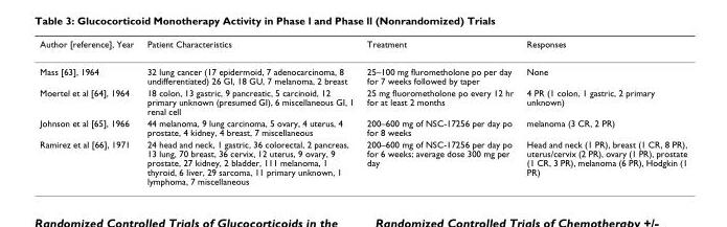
<table><thead><tr><td>Author [reference], Year</td><td>Patient Characteristics</td><td>Treatment</td><td>Responses</td></tr></thead><tbody><tr><td>Mass [63], 1964</td><td>32 lung cancer (17 epidermoid, 7 adenocarcinoma, 8 undifferentiated) 26 GI, 18 GU, 7 melanoma, 2 breast</td><td>25–100 mg flurometholone po per day for 7 weeks followed by taper</td><td>None</td></tr><tr><td>Moertel et al [64], 1964</td><td>18 colon, 13 gastric, 9 pancreatic, 5 carcinoid, 12 primary unknown (presumed GI), 6 miscellaneous GI, 1 renal cell</td><td>25 mg fluorometholone po every 12 hr for at least 2 months</td><td>4 PR (1 colon, 1 gastric, 2 primary unknown)</td></tr><tr><td>Johnson et al [65], 1966</td><td>44 melanoma, 9 lung carcinoma, 5 ovary, 4 uterus, 4 prostate, 4 kidney, 4 breast, 7 miscellaneous</td><td>200–600 mg of NSC-17256 per day po for 8 weeks</td><td>melanoma (3 CR, 2 PR)</td></tr><tr><td>Ramirez et al [66], 1971</td><td>24 head and neck, 1 gastric, 36 colorectal, 2 pancreas, 13 lung, 70 breast, 36 cervix, 12 uterus, 9 ovary, 9 prostate, 27 kidney, 2 bladder, 111 melanoma, 1 thyroid, 6 liver, 29 sarcoma, 11 primary unknown, 1 lymphoma, 7 miscellaneous</td><td>200–600 mg of NSC-17256 per day po for 6 weeks; average dose 300 mg per day</td><td>Head and neck (1 PR), breast (1 CR, 8 PR), uterus/cervix (2 PR), ovary (1 PR), prostate (1 CR, 3 PR), melanoma (6 PR), Hodgkin (1 PR)</td></tr></tbody></table>